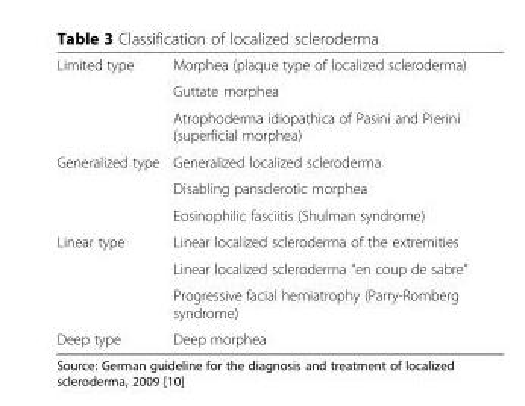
<table><tbody><tr><td rowspan="3">Limited type</td><td>Morphea (plaque type of localized scleroderma)</td></tr><tr><td>Guttate morphea</td></tr><tr><td>Atrophoderma idiopathica of Pasini and Pierini (superficial morphea)</td></tr><tr><td rowspan="3">Generalized type</td><td>Generalized localized scleroderma</td></tr><tr><td>Disabling pansclerotic morphea</td></tr><tr><td>Eosinophilic fasciitis (Shulman syndrome)</td></tr><tr><td rowspan="3">Linear type</td><td>Linear localized scleroderma of the extremities</td></tr><tr><td>Linear localized scleroderma “en coup de sabre”</td></tr><tr><td>Progressive facial hemiatrophy (Parry-Romberg syndrome)</td></tr><tr><td>Deep type</td><td>Deep morphea</td></tr></tbody></table>